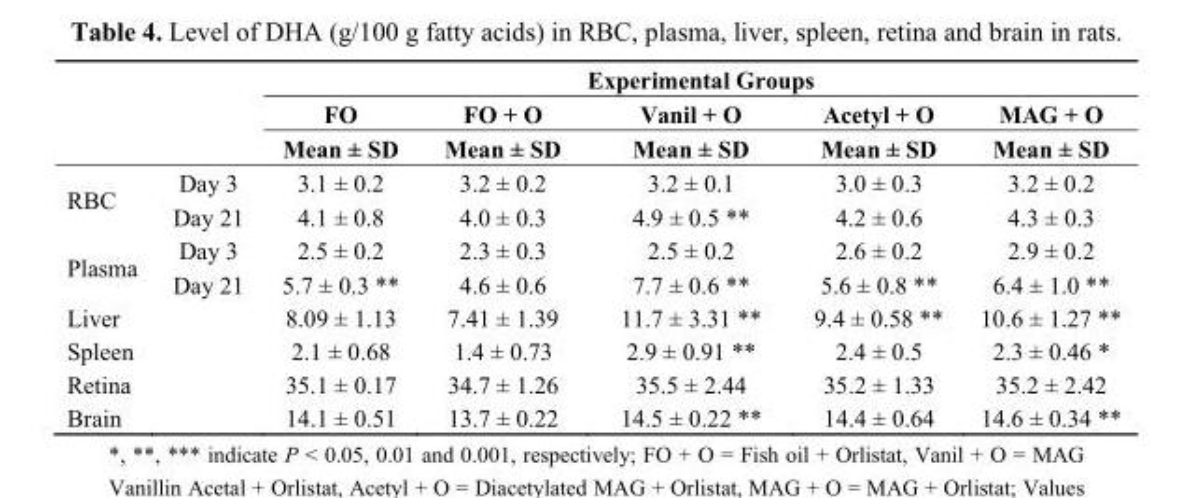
<table><thead><tr><td rowspan="3"></td><td rowspan="3"></td><td colspan="5">Experimental Groups</td></tr><tr><td rowspan="2">FO Mean ± SD</td><td rowspan="2">FO + O Mean ± SD</td><td rowspan="2">Vanil + O Mean ± SD</td><td rowspan="2">Acetyl + O Mean ± SD</td><td rowspan="2">MAG + O Mean ± SD</td></tr><tr></tr></thead><tbody><tr><td rowspan="2">RBC</td><td>Day 3</td><td>3.1 ± 0.2</td><td>3.2 ± 0.2</td><td>3.2 ± 0.1</td><td>3.0 ± 0.3</td><td>3.2 ± 0.2</td></tr><tr><td>Day 21</td><td>4.1 ± 0.8</td><td>4.0 ± 0.3</td><td>4.9 ± 0.5 **</td><td>4.2 ± 0.6</td><td>4.3 ± 0.3</td></tr><tr><td rowspan="2">Plasma</td><td>Day 3</td><td>2.5 ± 0.2</td><td>2.3 ± 0.3</td><td>2.5 ± 0.2</td><td>2.6 ± 0.2</td><td>2.9 ± 0.2</td></tr><tr><td>Day 21</td><td>5.7 ± 0.3 **</td><td>4.6 ± 0.6</td><td>7.7 ± 0.6 **</td><td>5.6 ± 0.8 **</td><td>6.4 ± 1.0 **</td></tr><tr><td>Liver</td><td></td><td>8.09 ± 1.13</td><td>7.41 ± 1.39</td><td>11.7 ± 3.31 **</td><td>9.4 ± 0.58 **</td><td>10.6 ± 1.27 **</td></tr><tr><td>Spleen</td><td></td><td>2.1 ± 0.68</td><td>1.4 ± 0.73</td><td>2.9 ± 0.91 **</td><td>2.4 ± 0.5</td><td>2.3 ± 0.46 *</td></tr><tr><td>Retina</td><td></td><td>35.1 ± 0.17</td><td>34.7 ± 1.26</td><td>35.5 ± 2.44</td><td>35.2 ± 1.33</td><td>35.2 ± 2.42</td></tr><tr><td>Brain</td><td></td><td>14.1 ± 0.51</td><td>13.7 ± 0.22</td><td>14.5 ± 0.22 **</td><td>14.4 ± 0.64</td><td>14.6 ± 0.34 **</td></tr></tbody></table>